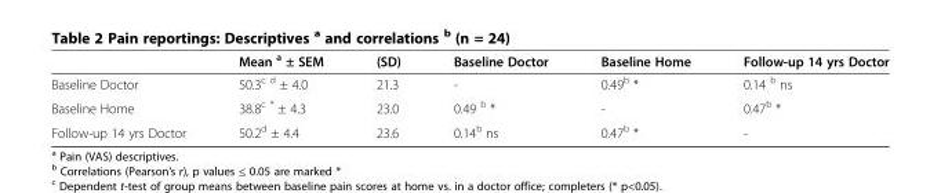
<table><thead><tr><td></td><td>Mean <sup>a</sup> ± SEM</td><td>(SD)</td><td>Baseline Doctor</td><td>Baseline Home</td><td>Follow-up 14 yrs Doctor</td></tr></thead><tbody><tr><td>Baseline Doctor</td><td>50.3<sup>c d</sup> ± 4.0</td><td>21.3</td><td>-</td><td>0.49<sup>b</sup> *</td><td>0.14 <sup>b</sup> ns</td></tr><tr><td>Baseline Home</td><td>38.8<sup>c *</sup> ± 4.3</td><td>23.0</td><td>0.49 <sup>b</sup> *</td><td>-</td><td>0.47<sup>b</sup> *</td></tr><tr><td>Follow-up 14 yrs Doctor</td><td>50.2<sup>d</sup> ± 4.4</td><td>23.6</td><td>0.14<sup>b</sup> ns</td><td>0.47<sup>b</sup> *</td><td>-</td></tr></tbody></table>